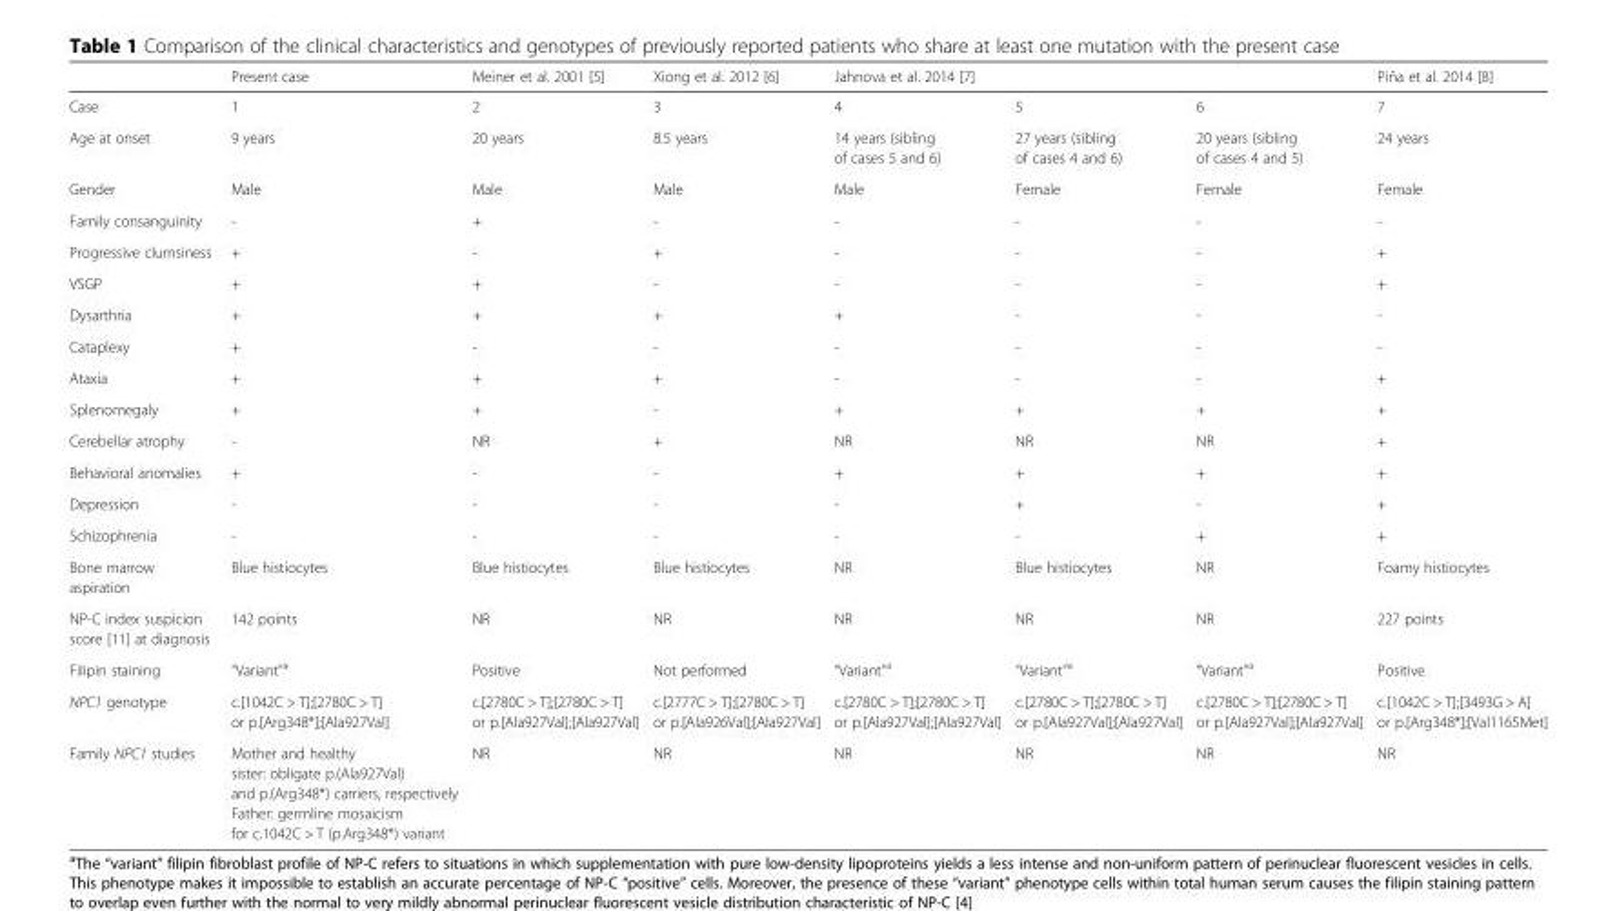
<table><thead><tr><td rowspan="2">Case</td><td rowspan="2">Present case 1</td><td rowspan="2">Meiner et al. 2001 [5] 2</td><td rowspan="2">Xiong et al. 2012 [6] 3</td><td colspan="3">Jahnova et al. 2014 [7]</td><td rowspan="2">Piña et al. 2014 [8] 7</td></tr><tr><td>4</td><td>5</td><td>6</td></tr></thead><tbody><tr><td>Age at onset</td><td>9 years</td><td>20 years</td><td>8.5 years</td><td>14 years (sibling of cases 5 and 6)</td><td>27 years (sibling of cases 4 and 6)</td><td>20 years (sibling of cases 4 and 5)</td><td>24 years</td></tr><tr><td>Gender</td><td>Male</td><td>Male</td><td>Male</td><td>Male</td><td>Female</td><td>Female</td><td>Female</td></tr><tr><td>Family consanguinity</td><td>-</td><td>+</td><td>-</td><td>-</td><td>-</td><td>-</td><td>-</td></tr><tr><td>Progressive clumsiness</td><td>+</td><td>-</td><td>+</td><td>-</td><td>-</td><td>-</td><td>+</td></tr><tr><td>VSGP</td><td>+</td><td>+</td><td>-</td><td>-</td><td>-</td><td>-</td><td>+</td></tr><tr><td>Dysarthria</td><td>+</td><td>+</td><td>+</td><td>+</td><td>-</td><td>-</td><td>-</td></tr><tr><td>Cataplexy</td><td>+</td><td>-</td><td>-</td><td>-</td><td>-</td><td>-</td><td>-</td></tr><tr><td>Ataxia</td><td>+</td><td>+</td><td>+</td><td>-</td><td>-</td><td>-</td><td>+</td></tr><tr><td>Splenomegaly</td><td>+</td><td>+</td><td>-</td><td>+</td><td>+</td><td>+</td><td>+</td></tr><tr><td>Cerebellar atrophy</td><td>-</td><td>NR</td><td>+</td><td>NR</td><td>NR</td><td>NR</td><td>+</td></tr><tr><td>Behavioral anomalies</td><td>+</td><td>-</td><td>-</td><td>+</td><td>+</td><td>+</td><td>+</td></tr><tr><td>Depression</td><td>-</td><td>-</td><td>-</td><td>-</td><td>+</td><td>-</td><td>+</td></tr><tr><td>Schizophrenia</td><td>-</td><td>-</td><td>-</td><td>-</td><td>-</td><td>+</td><td>+</td></tr><tr><td>Bone marrow aspiration</td><td>Blue histiocytes</td><td>Blue histiocytes</td><td>Blue histiocytes</td><td>NR</td><td>Blue histiocytes</td><td>NR</td><td>Foamy histiocytes</td></tr><tr><td>NP-C index suspicion score [11] at diagnosis</td><td>142 points</td><td>NR</td><td>NR</td><td>NR</td><td>NR</td><td>NR</td><td>227 points</td></tr><tr><td>Filipin staining</td><td>“Variant”<sup>a</sup></td><td>Positive</td><td>Not performed</td><td>“Variant”<sup>a</sup></td><td>“Variant”<sup>a</sup></td><td>“Variant”<sup>a</sup></td><td>Positive</td></tr><tr><td>NPC1 genotype</td><td>c.[1042C &gt; T];[2780C &gt; T] or p.[Arg348*];[Ala927Val]</td><td>c.[2780C &gt; T];[2780C &gt; T] or p.[Ala927Val];[Ala927Val]</td><td>c.[2777C &gt; T];[2780C &gt; T] or p.[Ala926Val];[Ala927Val]</td><td>c.[2780C &gt; T];[2780C &gt; T] or p.[Ala927Val];[Ala927Val]</td><td>c.[2780C &gt; T];[2780C &gt; T] or p.[Ala927Val];[Ala927Val]</td><td>c.[2780C &gt; T];[2780C &gt; T] or p.[Ala927Val];[Ala927Val]</td><td>c.[1042C &gt; T];[3493G &gt; A] or p.[Arg348*];[Val1165Met]</td></tr><tr><td>Family NPC1 studies</td><td>Mother and healthy sister: obligate p.(Ala927Val) and p.(Arg348*) carriers, respectively Father: germline mosaicism for c.1042C &gt; T (p.Arg348*) variant</td><td>NR</td><td>NR</td><td>NR</td><td>NR</td><td>NR</td><td>NR</td></tr></tbody></table>